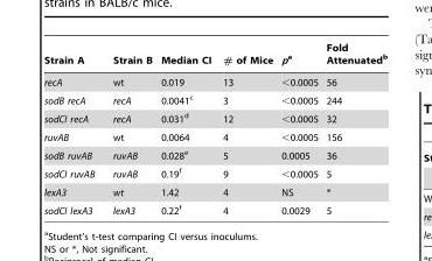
<table><thead><tr><td>Strain A</td><td>Strain B</td><td>Median CI</td><td># of Mice</td><td>pa</td><td>Fold Attenuated<sup>b</sup></td></tr></thead><tbody><tr><td>recA</td><td>wt</td><td>0.019</td><td>13</td><td>&lt;0.0005</td><td>56</td></tr><tr><td>sodB recA</td><td>recA</td><td>0.0041<sup>c</sup></td><td>3</td><td>&lt;0.0005</td><td>244</td></tr><tr><td>sodCI recA</td><td>recA</td><td>0.031<sup>d</sup></td><td>12</td><td>&lt;0.0005</td><td>32</td></tr><tr><td>ruvAB</td><td>wt</td><td>0.0064</td><td>4</td><td>&lt;0.0005</td><td>156</td></tr><tr><td>sodB ruvAB</td><td>ruvAB</td><td>0.028<sup>e</sup></td><td>5</td><td>0.0005</td><td>36</td></tr><tr><td>sodCI ruvAB</td><td>ruvAB</td><td>0.19<sup>f</sup></td><td>9</td><td>&lt;0.0005</td><td>5</td></tr><tr><td>lexA3</td><td>wt</td><td>1.42</td><td>4</td><td>NS</td><td>*</td></tr><tr><td>sodCI lexA3</td><td>lexA3</td><td>0.22<sup>f</sup></td><td>4</td><td>0.0029</td><td>5</td></tr></tbody></table>